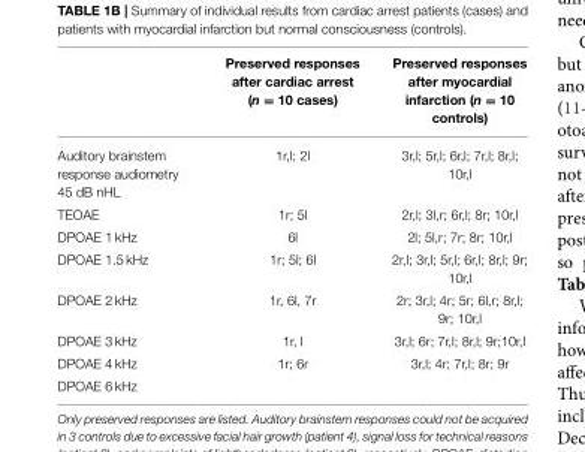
<table><thead><tr><td></td><td>Preserved responses after cardiac arrest (n = 10 cases)</td><td>Preserved responses after myocardial infarction (n = 10 controls)</td></tr></thead><tbody><tr><td>Auditory brainstem response audiometry 45 dB nHL</td><td>1r,l; 2l</td><td>3r,l; 5r,l; 6r,l; 7r,l; 8r,l; 10r,l</td></tr><tr><td>TEOAE</td><td>1r; 5l</td><td>2r,l; 3l,r; 6r,l; 8r; 10r,l</td></tr><tr><td>DPOAE 1 kHz</td><td>6l</td><td>2l; 5l,r; 7r; 8r; 10r,l</td></tr><tr><td>DPOAE 1.5 kHz</td><td>1r; 5l; 6l</td><td>2r,l; 3r,l; 5r,l; 6r,l; 8r,l; 9r; 10r,l</td></tr><tr><td>DPOAE 2 kHz</td><td>1r, 6l, 7r</td><td>2r; 3r,l; 4r; 5r; 6l,r; 8r,l; 9r; 10r,l</td></tr><tr><td>DPOAE 3 kHz</td><td>1r, l</td><td>3r,l; 6r; 7r,l; 8r,l; 9r;10r,l</td></tr><tr><td>DPOAE 4 kHz</td><td>1r; 6r</td><td>3r,l; 4r; 7r,l; 8r; 9r</td></tr><tr><td>DPOAE 6 kHz</td><td></td><td></td></tr></tbody></table>